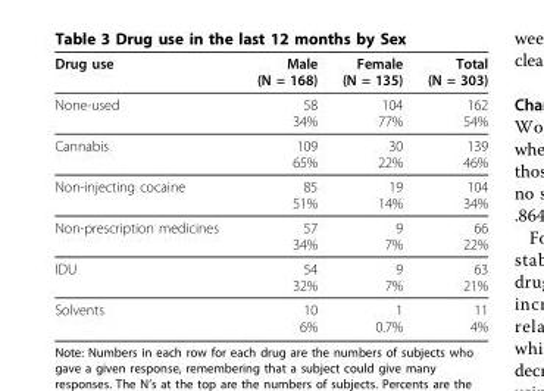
<table><thead><tr><td>Drug use</td><td>Male (N = 168)</td><td>Female (N = 135)</td><td>Total (N = 303)</td></tr></thead><tbody><tr><td>None-used</td><td>58 34%</td><td>104 77%</td><td>162 54%</td></tr><tr><td>Cannabis</td><td>109 65%</td><td>30 22%</td><td>139 46%</td></tr><tr><td>Non-injecting cocaine</td><td>85 51%</td><td>19 14%</td><td>104 34%</td></tr><tr><td>Non-prescription medicines</td><td>57 34%</td><td>9 7%</td><td>66 22%</td></tr><tr><td>IDU</td><td>54 32%</td><td>9 7%</td><td>63 21%</td></tr><tr><td>Solvents</td><td>10 6%</td><td>1 0.7%</td><td>11 4%</td></tr></tbody></table>